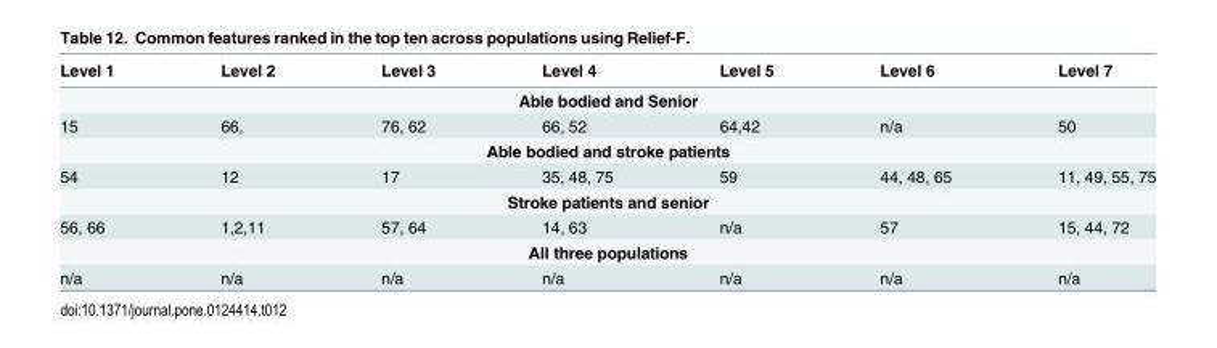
<table><thead><tr><td>Level 1</td><td>Level 2</td><td>Level 3</td><td>Level 4</td><td>Level 5</td><td>Level 6</td><td>Level 7</td></tr></thead><tbody><tr><td colspan="7">Able bodied and Senior</td></tr><tr><td>15</td><td>66,</td><td>76, 62</td><td>66, 52</td><td>64,42</td><td>n/a</td><td>50</td></tr><tr><td colspan="7">Able bodied and stroke patients</td></tr><tr><td>54</td><td>12</td><td>17</td><td>35, 48, 75</td><td>59</td><td>44, 48, 65</td><td>11, 49, 55, 75</td></tr><tr><td colspan="7">Stroke patients and senior</td></tr><tr><td>56, 66</td><td>1,2,11</td><td>57, 64</td><td>14, 63</td><td>n/a</td><td>57</td><td>15, 44, 72</td></tr><tr><td colspan="7">All three populations</td></tr><tr><td>n/a</td><td>n/a</td><td>n/a</td><td>n/a</td><td>n/a</td><td>n/a</td><td>n/a</td></tr></tbody></table>